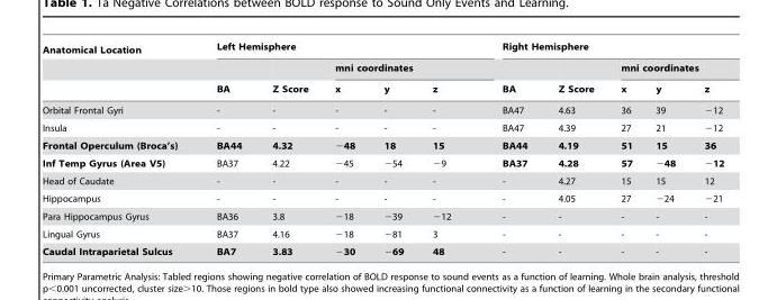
<table><thead><tr><td rowspan="3">Anatomical Location</td><td colspan="5">Left Hemisphere</td><td colspan="5">Right Hemisphere</td></tr><tr><td rowspan="2">BA</td><td rowspan="2">Z Score</td><td colspan="3">mni coordinates</td><td rowspan="2">BA</td><td rowspan="2">Z Score</td><td colspan="3">mni coordinates</td></tr><tr><td>x</td><td>y</td><td>z</td><td>x</td><td>y</td><td>z</td></tr></thead><tbody><tr><td>Orbital Frontal Gyri</td><td>-</td><td>-</td><td>-</td><td>-</td><td>-</td><td>BA47</td><td>4.63</td><td>36</td><td>39</td><td>−12</td></tr><tr><td>Insula</td><td>-</td><td>-</td><td>-</td><td>-</td><td>-</td><td>BA47</td><td>4.39</td><td>27</td><td>21</td><td>−12</td></tr><tr><td>Frontal Operculum (Broca’s)</td><td>BA44</td><td>4.32</td><td>−48</td><td>18</td><td>15</td><td>BA44</td><td>4.19</td><td>51</td><td>15</td><td>36</td></tr><tr><td>Inf Temp Gyrus (Area V5)</td><td>BA37</td><td>4.22</td><td>−45</td><td>−54</td><td>−9</td><td>BA37</td><td>4.28</td><td>57</td><td>−48</td><td>−12</td></tr><tr><td>Head of Caudate</td><td>-</td><td>-</td><td>-</td><td>-</td><td>-</td><td>-</td><td>4.27</td><td>15</td><td>15</td><td>12</td></tr><tr><td>Hippocampus</td><td>-</td><td>-</td><td>-</td><td>-</td><td>-</td><td>-</td><td>4.05</td><td>27</td><td>−24</td><td>−21</td></tr><tr><td>Para Hippocampus Gyrus</td><td>BA36</td><td>3.8</td><td>−18</td><td>−39</td><td>−12</td><td>-</td><td>-</td><td>-</td><td>-</td><td>-</td></tr><tr><td>Lingual Gyrus</td><td>BA37</td><td>4.16</td><td>−18</td><td>−81</td><td>3</td><td>-</td><td>-</td><td>-</td><td>-</td><td>-</td></tr><tr><td>Caudal Intraparietal Sulcus</td><td>BA7</td><td>3.83</td><td>−30</td><td>−69</td><td>48</td><td>-</td><td>-</td><td>-</td><td>-</td><td>-</td></tr></tbody></table>